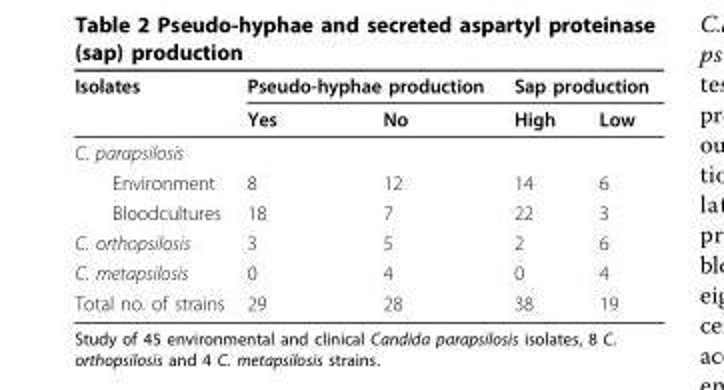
<table><thead><tr><td rowspan="2">Isolates</td><td colspan="2">Pseudo-hyphae production</td><td colspan="2">Sap production</td></tr><tr><td>Yes</td><td>No</td><td>High</td><td>Low</td></tr></thead><tbody><tr><td colspan="5">C. parapsilosis</td></tr><tr><td>Environment</td><td>8</td><td>12</td><td>14</td><td>6</td></tr><tr><td>Bloodcultures</td><td>18</td><td>7</td><td>22</td><td>3</td></tr><tr><td>C. orthopsilosis</td><td>3</td><td>5</td><td>2</td><td>6</td></tr><tr><td>C. metapsilosis</td><td>0</td><td>4</td><td>0</td><td>4</td></tr><tr><td>Total no. of strains</td><td>29</td><td>28</td><td>38</td><td>19</td></tr></tbody></table>